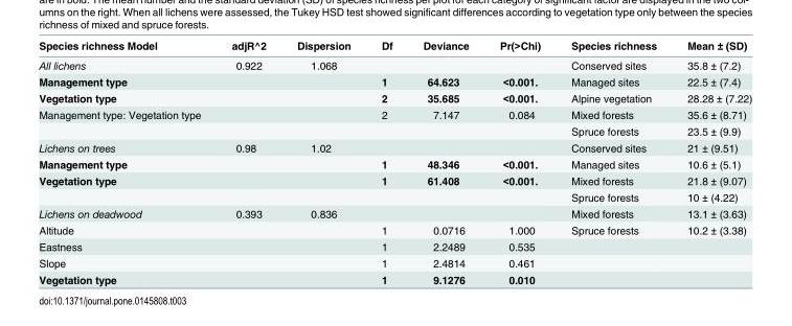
<table><thead><tr><td>Species richness Model</td><td>adjR^2</td><td>Dispersion</td><td>Df</td><td>Deviance</td><td>Pr(&gt;Chi)</td><td>Species richness</td><td>Mean ± (SD)</td></tr></thead><tbody><tr><td>All lichens</td><td>0.922</td><td>1.068</td><td></td><td></td><td></td><td>Conserved sites</td><td>35.8 ± (7.2)</td></tr><tr><td>Management type</td><td></td><td></td><td>1</td><td>64.623</td><td>&lt;0.001.</td><td>Managed sites</td><td>22.5 ± (7.4)</td></tr><tr><td>Vegetation type</td><td></td><td></td><td>2</td><td>35.685</td><td>&lt;0.001.</td><td>Alpine vegetation</td><td>28.28 ± (7.22)</td></tr><tr><td rowspan="2">Management type: Vegetation type</td><td></td><td></td><td>2</td><td>7.147</td><td>0.084</td><td>Mixed forests</td><td>35.6 ± (8.71)</td></tr><tr><td></td><td></td><td></td><td></td><td></td><td>Spruce forests</td><td>23.5 ± (9.9)</td></tr><tr><td>Lichens on trees</td><td>0.98</td><td>1.02</td><td></td><td></td><td></td><td>Conserved sites</td><td>21 ± (9.51)</td></tr><tr><td>Management type</td><td></td><td></td><td>1</td><td>48.346</td><td>&lt;0.001.</td><td>Managed sites</td><td>10.6 ± (5.1)</td></tr><tr><td rowspan="2">Vegetation type</td><td></td><td></td><td>1</td><td>61.408</td><td>&lt;0.001.</td><td>Mixed forests</td><td>21.8 ± (9.07)</td></tr><tr><td></td><td></td><td></td><td></td><td></td><td>Spruce forests</td><td>10 ± (4.22)</td></tr><tr><td>Lichens on deadwood</td><td>0.393</td><td>0.836</td><td></td><td></td><td></td><td>Mixed forests</td><td>13.1 ± (3.63)</td></tr><tr><td>Altitude</td><td></td><td></td><td>1</td><td>0.0716</td><td>1.000</td><td>Spruce forests</td><td>10.2 ± (3.38)</td></tr><tr><td>Eastness</td><td></td><td></td><td>1</td><td>2.2489</td><td>0.535</td><td></td><td></td></tr><tr><td>Slope</td><td></td><td></td><td>1</td><td>2.4814</td><td>0.461</td><td></td><td></td></tr><tr><td>Vegetation type</td><td></td><td></td><td>1</td><td>9.1276</td><td>0.010</td><td></td><td></td></tr></tbody></table>